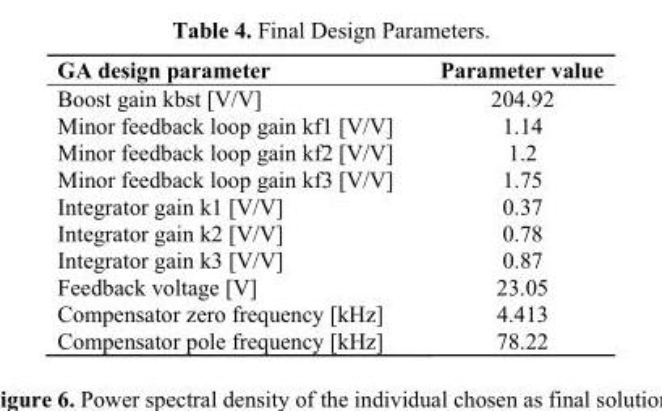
<table><thead><tr><td>GA design parameter</td><td>Parameter value</td></tr></thead><tbody><tr><td>Boost gain kbst [V/V]</td><td>204.92</td></tr><tr><td>Minor feedback loop gain kf1 [V/V]</td><td>1.14</td></tr><tr><td>Minor feedback loop gain kf2 [V/V]</td><td>1.2</td></tr><tr><td>Minor feedback loop gain kf3 [V/V]</td><td>1.75</td></tr><tr><td>Integrator gain k1 [V/V]</td><td>0.37</td></tr><tr><td>Integrator gain k2 [V/V]</td><td>0.78</td></tr><tr><td>Integrator gain k3 [V/V]</td><td>0.87</td></tr><tr><td>Feedback voltage [V]</td><td>23.05</td></tr><tr><td>Compensator zero frequency [kHz]</td><td>4.413</td></tr><tr><td>Compensator pole frequency [kHz]</td><td>78.22</td></tr></tbody></table>